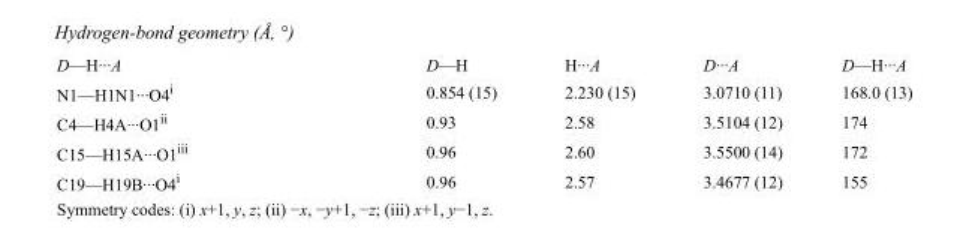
<table><tbody><tr><td>D—H···A</td><td>D—H</td><td>H···A</td><td>D···A</td><td>D—H···A</td></tr><tr><td>N1—H1N1···O4<sup>i</sup></td><td>0.854 (15)</td><td>2.230 (15)</td><td>3.0710 (11)</td><td>168.0 (13)</td></tr><tr><td>C4—H4A···O1<sup>ii</sup></td><td>0.93</td><td>2.58</td><td>3.5104 (12)</td><td>174</td></tr><tr><td>C15—H15A···O1<sup>iii</sup></td><td>0.96</td><td>2.60</td><td>3.5500 (14)</td><td>172</td></tr><tr><td>C19—H19B···O4<sup>i</sup></td><td>0.96</td><td>2.57</td><td>3.4677 (12)</td><td>155</td></tr></tbody></table>